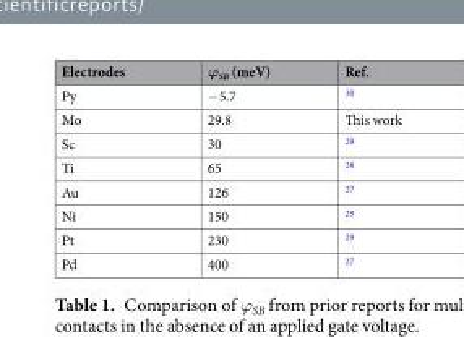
<table><thead><tr><td>Electrodes</td><td>ϕ<sub>SB</sub> (meV)</td><td>Ref.</td></tr></thead><tbody><tr><td>Py</td><td>−5.7</td><td><sup>30</sup></td></tr><tr><td>Mo</td><td>29.8</td><td>This work</td></tr><tr><td>Sc</td><td>30</td><td><sup>29</sup></td></tr><tr><td>Ti</td><td>65</td><td><sup>28</sup></td></tr><tr><td>Au</td><td>126</td><td><sup>27</sup></td></tr><tr><td>Ni</td><td>150</td><td><sup>29</sup></td></tr><tr><td>Pt</td><td>230</td><td><sup>29</sup></td></tr><tr><td>Pd</td><td>400</td><td><sup>27</sup></td></tr></tbody></table>